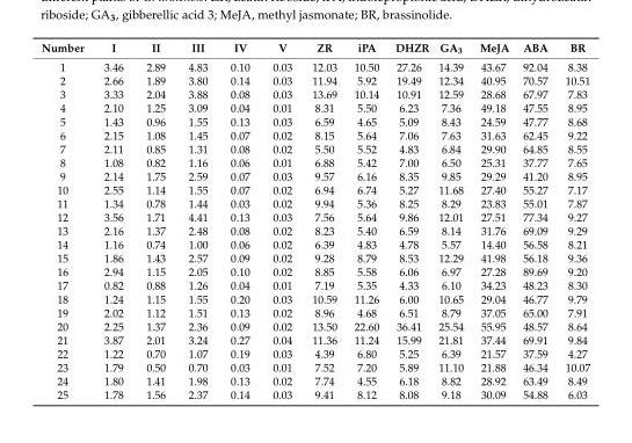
<table><thead><tr><td>Number</td><td>I</td><td>II</td><td>III</td><td>IV</td><td>V</td><td>ZR</td><td>iPA</td><td>DHZR</td><td>GA<sub>3</sub></td><td>MeJA</td><td>ABA</td><td>BR</td></tr></thead><tbody><tr><td>1</td><td>3.46</td><td>2.89</td><td>4.83</td><td>0.10</td><td>0.03</td><td>12.03</td><td>10.50</td><td>27.26</td><td>14.39</td><td>43.67</td><td>92.04</td><td>8.38</td></tr><tr><td>2</td><td>2.66</td><td>1.89</td><td>3.80</td><td>0.14</td><td>0.03</td><td>11.94</td><td>5.92</td><td>19.49</td><td>12.34</td><td>40.95</td><td>70.57</td><td>10.51</td></tr><tr><td>3</td><td>3.33</td><td>2.04</td><td>3.88</td><td>0.08</td><td>0.03</td><td>13.69</td><td>10.14</td><td>10.91</td><td>12.59</td><td>28.68</td><td>67.97</td><td>7.83</td></tr><tr><td>4</td><td>2.10</td><td>1.25</td><td>3.09</td><td>0.04</td><td>0.01</td><td>8.31</td><td>5.50</td><td>6.23</td><td>7.36</td><td>49.18</td><td>47.55</td><td>8.95</td></tr><tr><td>5</td><td>1.43</td><td>0.96</td><td>1.55</td><td>0.13</td><td>0.03</td><td>6.59</td><td>4.65</td><td>5.09</td><td>8.43</td><td>24.59</td><td>47.77</td><td>8.68</td></tr><tr><td>6</td><td>2.15</td><td>1.08</td><td>1.45</td><td>0.07</td><td>0.02</td><td>8.15</td><td>5.64</td><td>7.06</td><td>7.63</td><td>31.63</td><td>62.45</td><td>9.22</td></tr><tr><td>7</td><td>2.11</td><td>0.85</td><td>1.31</td><td>0.08</td><td>0.02</td><td>5.50</td><td>5.52</td><td>4.83</td><td>6.84</td><td>29.90</td><td>64.85</td><td>8.55</td></tr><tr><td>8</td><td>1.08</td><td>0.82</td><td>1.16</td><td>0.06</td><td>0.01</td><td>6.88</td><td>5.42</td><td>7.00</td><td>6.50</td><td>25.31</td><td>37.77</td><td>7.65</td></tr><tr><td>9</td><td>2.14</td><td>1.75</td><td>2.59</td><td>0.07</td><td>0.03</td><td>9.57</td><td>6.16</td><td>8.35</td><td>9.85</td><td>29.29</td><td>41.20</td><td>8.95</td></tr><tr><td>10</td><td>2.55</td><td>1.14</td><td>1.55</td><td>0.07</td><td>0.02</td><td>6.94</td><td>6.74</td><td>5.27</td><td>11.68</td><td>27.40</td><td>55.27</td><td>7.17</td></tr><tr><td>11</td><td>1.34</td><td>0.78</td><td>1.44</td><td>0.03</td><td>0.02</td><td>9.94</td><td>5.36</td><td>8.25</td><td>8.29</td><td>23.83</td><td>55.01</td><td>7.87</td></tr><tr><td>12</td><td>3.56</td><td>1.71</td><td>4.41</td><td>0.13</td><td>0.03</td><td>7.56</td><td>5.64</td><td>9.86</td><td>12.01</td><td>27.51</td><td>77.34</td><td>9.27</td></tr><tr><td>13</td><td>2.16</td><td>1.37</td><td>2.48</td><td>0.08</td><td>0.02</td><td>8.23</td><td>5.40</td><td>6.59</td><td>8.14</td><td>31.76</td><td>69.09</td><td>9.29</td></tr><tr><td>14</td><td>1.16</td><td>0.74</td><td>1.00</td><td>0.06</td><td>0.02</td><td>6.39</td><td>4.83</td><td>4.78</td><td>5.57</td><td>14.40</td><td>56.58</td><td>8.21</td></tr><tr><td>15</td><td>1.86</td><td>1.43</td><td>2.57</td><td>0.09</td><td>0.02</td><td>9.28</td><td>8.79</td><td>8.53</td><td>12.29</td><td>41.98</td><td>56.18</td><td>9.36</td></tr><tr><td>16</td><td>2.94</td><td>1.15</td><td>2.05</td><td>0.10</td><td>0.02</td><td>8.85</td><td>5.58</td><td>6.06</td><td>6.97</td><td>27.28</td><td>89.69</td><td>9.20</td></tr><tr><td>17</td><td>0.82</td><td>0.88</td><td>1.26</td><td>0.04</td><td>0.01</td><td>7.19</td><td>5.35</td><td>4.33</td><td>6.10</td><td>34.23</td><td>48.23</td><td>8.30</td></tr><tr><td>18</td><td>1.24</td><td>1.15</td><td>1.55</td><td>0.20</td><td>0.03</td><td>10.59</td><td>11.26</td><td>6.00</td><td>10.65</td><td>29.04</td><td>46.77</td><td>9.79</td></tr><tr><td>19</td><td>2.02</td><td>1.12</td><td>1.51</td><td>0.13</td><td>0.02</td><td>8.96</td><td>4.68</td><td>6.51</td><td>8.79</td><td>37.05</td><td>65.00</td><td>7.91</td></tr><tr><td>20</td><td>2.25</td><td>1.37</td><td>2.36</td><td>0.09</td><td>0.02</td><td>13.50</td><td>22.60</td><td>36.41</td><td>25.54</td><td>55.95</td><td>48.57</td><td>8.64</td></tr><tr><td>21</td><td>3.87</td><td>2.01</td><td>3.24</td><td>0.27</td><td>0.04</td><td>11.36</td><td>11.24</td><td>15.99</td><td>21.81</td><td>37.44</td><td>69.91</td><td>9.84</td></tr><tr><td>22</td><td>1.22</td><td>0.70</td><td>1.07</td><td>0.19</td><td>0.03</td><td>4.39</td><td>6.80</td><td>5.25</td><td>6.39</td><td>21.57</td><td>37.59</td><td>4.27</td></tr><tr><td>23</td><td>1.79</td><td>0.50</td><td>0.70</td><td>0.03</td><td>0.01</td><td>7.52</td><td>7.20</td><td>5.89</td><td>11.10</td><td>21.88</td><td>46.34</td><td>10.07</td></tr><tr><td>24</td><td>1.80</td><td>1.41</td><td>1.98</td><td>0.13</td><td>0.02</td><td>7.74</td><td>4.55</td><td>6.18</td><td>8.82</td><td>28.92</td><td>63.49</td><td>8.49</td></tr><tr><td>25</td><td>1.78</td><td>1.56</td><td>2.37</td><td>0.14</td><td>0.03</td><td>9.41</td><td>8.12</td><td>8.08</td><td>9.18</td><td>30.09</td><td>54.88</td><td>6.03</td></tr></tbody></table>